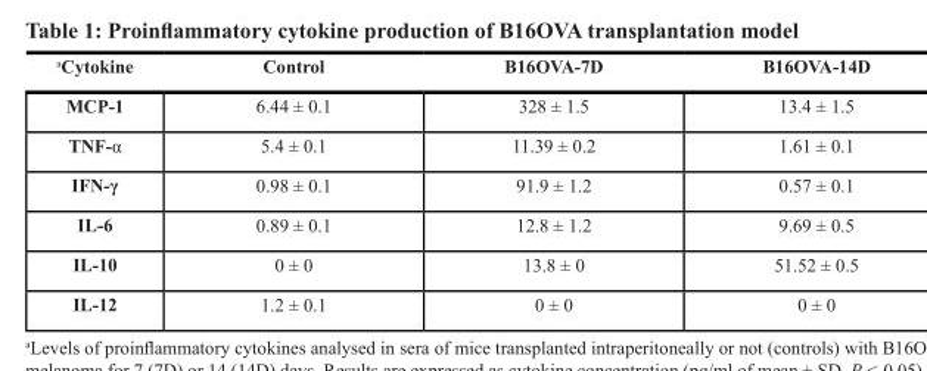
<table><thead><tr><td><sup>a</sup>Cytokine</td><td>Control</td><td>B16OVA-7D</td><td>B16OVA-14D</td></tr></thead><tbody><tr><td>MCP-1</td><td>6.44 ± 0.1</td><td>328 ± 1.5</td><td>13.4 ± 1.5</td></tr><tr><td>TNF-α</td><td>5.4 ± 0.1</td><td>11.39 ± 0.2</td><td>1.61 ± 0.1</td></tr><tr><td>IFN-γ</td><td>0.98 ± 0.1</td><td>91.9 ± 1.2</td><td>0.57 ± 0.1</td></tr><tr><td>IL-6</td><td>0.89 ± 0.1</td><td>12.8 ± 1.2</td><td>9.69 ± 0.5</td></tr><tr><td>IL-10</td><td>0 ± 0</td><td>13.8 ± 0</td><td>51.52 ± 0.5</td></tr><tr><td>IL-12</td><td>1.2 ± 0.1</td><td>0 ± 0</td><td>0 ± 0</td></tr></tbody></table>